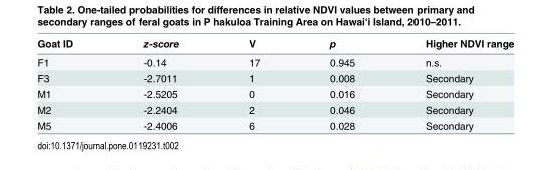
<table><thead><tr><td>Goat ID</td><td>z-score</td><td>V</td><td>p</td><td>Higher NDVI range</td></tr></thead><tbody><tr><td>F1</td><td>-0.14</td><td>17</td><td>0.945</td><td>n.s.</td></tr><tr><td>F3</td><td>-2.7011</td><td>1</td><td>0.008</td><td>Secondary</td></tr><tr><td>M1</td><td>-2.5205</td><td>0</td><td>0.016</td><td>Secondary</td></tr><tr><td>M2</td><td>-2.2404</td><td>2</td><td>0.046</td><td>Secondary</td></tr><tr><td>M5</td><td>-2.4006</td><td>6</td><td>0.028</td><td>Secondary</td></tr></tbody></table>